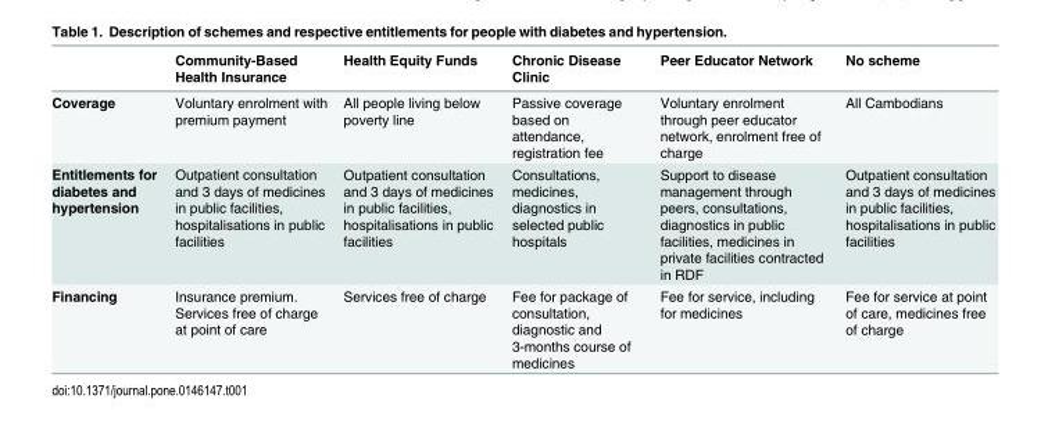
<table><thead><tr><td></td><td>Community-Based Health Insurance</td><td>Health Equity Funds</td><td>Chronic Disease Clinic</td><td>Peer Educator Network</td><td>No scheme</td></tr></thead><tbody><tr><td>Coverage</td><td>Voluntary enrolment with premium payment</td><td>All people living below poverty line</td><td>Passive coverage based on attendance, registration fee</td><td>Voluntary enrolment through peer educator network, enrolment free of charge</td><td>All Cambodians</td></tr><tr><td>Entitlements for diabetes and hypertension</td><td>Outpatient consultation and 3 days of medicines in public facilities, hospitalisations in public facilities</td><td>Outpatient consultation and 3 days of medicines in public facilities, hospitalisations in public facilities</td><td>Consultations, medicines, diagnostics in selected public hospitals</td><td>Support to disease management through peers, consultations, diagnostics in public facilities, medicines in private facilities contracted in RDF</td><td>Outpatient consultation and 3 days of medicines in public facilities, hospitalisations in public facilities</td></tr><tr><td>Financing</td><td>Insurance premium. Services free of charge at point of care</td><td>Services free of charge</td><td>Fee for package of consultation, diagnostic and 3-months course of medicines</td><td>Fee for service, including for medicines</td><td>Fee for service at point of care, medicines free of charge</td></tr></tbody></table>